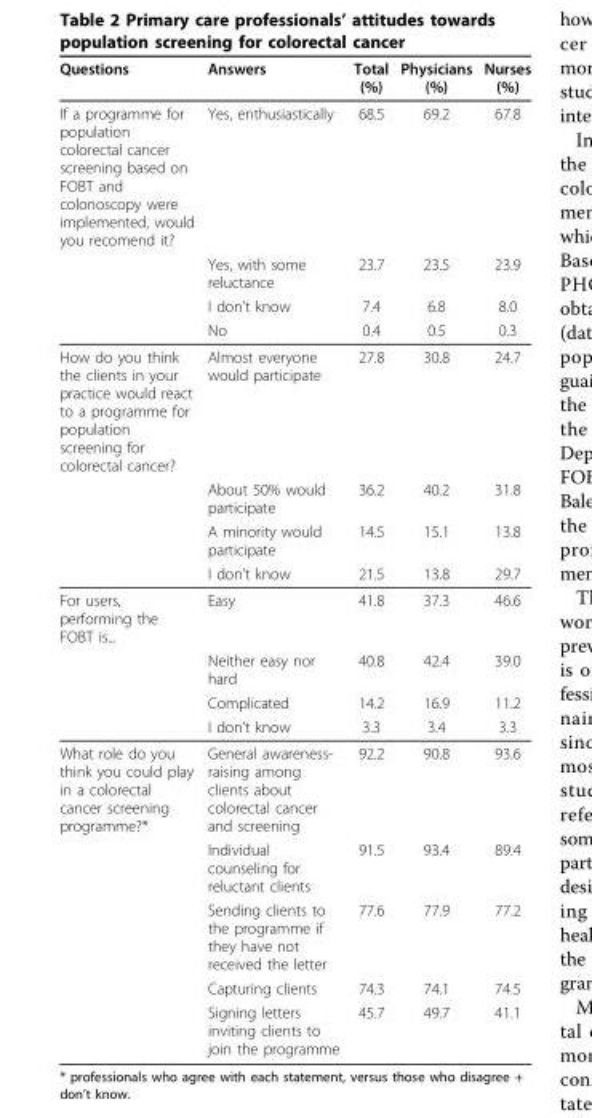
<table><thead><tr><td>Questions</td><td>Answers</td><td>Total (%)</td><td>Physicians (%)</td><td>Nurses (%)</td></tr></thead><tbody><tr><td rowspan="4">If a programme for population colorectal cancer screening based on FOBT and colonoscopy were implemented, would you recomend it?</td><td>Yes, enthusiastically</td><td>68.5</td><td>69.2</td><td>67.8</td></tr><tr><td>Yes, with some reluctance</td><td>23.7</td><td>23.5</td><td>23.9</td></tr><tr><td>I don’t know</td><td>7.4</td><td>6.8</td><td>8.0</td></tr><tr><td>No</td><td>0.4</td><td>0.5</td><td>0.3</td></tr><tr><td rowspan="4">How do you think the clients in your practice would react to a programme for population screening for colorectal cancer?</td><td>Almost everyone would participate</td><td>27.8</td><td>30.8</td><td>24.7</td></tr><tr><td>About 50% would participate</td><td>36.2</td><td>40.2</td><td>31.8</td></tr><tr><td>A minority would participate</td><td>14.5</td><td>15.1</td><td>13.8</td></tr><tr><td>I don’t know</td><td>21.5</td><td>13.8</td><td>29.7</td></tr><tr><td rowspan="4">For users, performing the FOBT is...</td><td>Easy</td><td>41.8</td><td>37.3</td><td>46.6</td></tr><tr><td>Neither easy nor hard</td><td>40.8</td><td>42.4</td><td>39.0</td></tr><tr><td>Complicated</td><td>14.2</td><td>16.9</td><td>11.2</td></tr><tr><td>I don’t know</td><td>3.3</td><td>3.4</td><td>3.3</td></tr><tr><td rowspan="5">What role do you think you could play in a colorectal cancer screening programme?*</td><td>General awareness- raising among clients about colorectal cancer and screening</td><td>92.2</td><td>90.8</td><td>93.6</td></tr><tr><td>Individual counseling for reluctant clients</td><td>91.5</td><td>93.4</td><td>89.4</td></tr><tr><td>Sending clients to the programme if they have not received the letter</td><td>77.6</td><td>77.9</td><td>77.2</td></tr><tr><td>Capturing clients</td><td>74.3</td><td>74.1</td><td>74.5</td></tr><tr><td>Signing letters inviting clients to join the programme</td><td>45.7</td><td>49.7</td><td>41.1</td></tr></tbody></table>